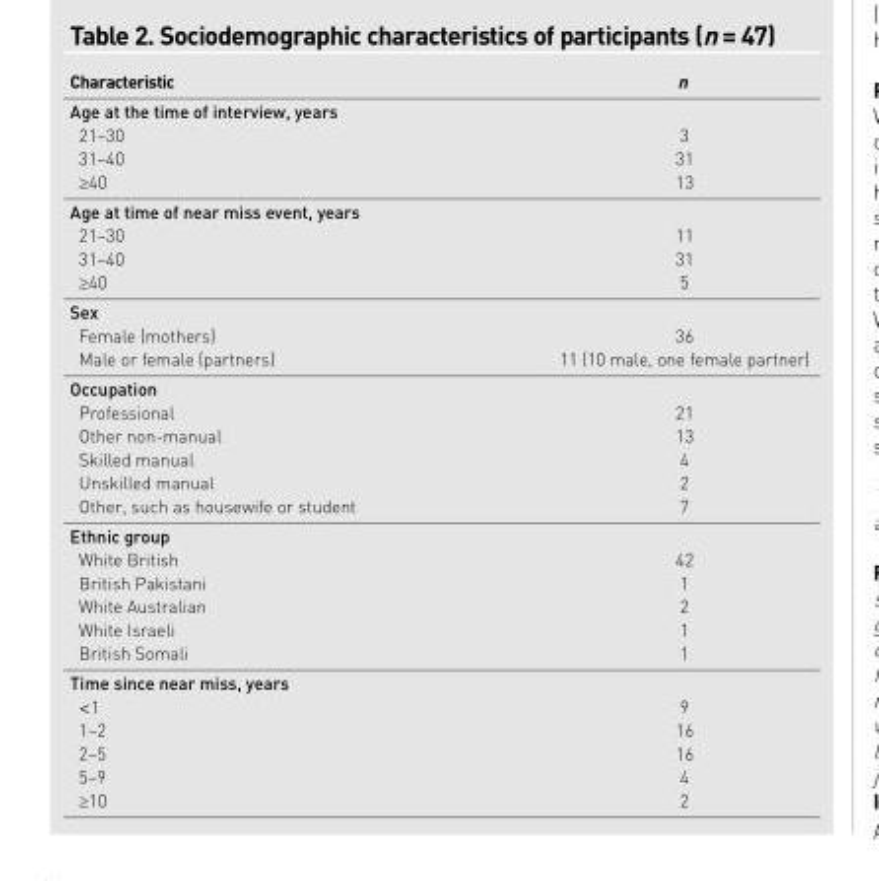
<table><thead><tr><td>Characteristic</td><td>n</td></tr></thead><tbody><tr><td colspan="2">Age at the time of interview, years</td></tr><tr><td>21–30</td><td>3</td></tr><tr><td>31–40</td><td>31</td></tr><tr><td>≥40</td><td>13</td></tr><tr><td colspan="2">Age at time of near miss event, years</td></tr><tr><td>21–30</td><td>11</td></tr><tr><td>31–40</td><td>31</td></tr><tr><td>≥40</td><td>5</td></tr><tr><td colspan="2">Sex</td></tr><tr><td>Female (mothers)</td><td>36</td></tr><tr><td>Male or female (partners)</td><td>11 (10 male, one female partner)</td></tr><tr><td colspan="2">Occupation</td></tr><tr><td>Professional</td><td>21</td></tr><tr><td>Other non-manual</td><td>13</td></tr><tr><td>Skilled manual</td><td>4</td></tr><tr><td>Unskilled manual</td><td>2</td></tr><tr><td>Other, such as housewife or student</td><td>7</td></tr><tr><td colspan="2">Ethnic group</td></tr><tr><td>White British</td><td>42</td></tr><tr><td>British Pakistani</td><td>1</td></tr><tr><td>White Australian</td><td>2</td></tr><tr><td>White Israeli</td><td>1</td></tr><tr><td>British Somali</td><td>1</td></tr><tr><td colspan="2">Time since near miss, years</td></tr><tr><td>&lt;1</td><td>9</td></tr><tr><td>1–2</td><td>16</td></tr><tr><td>2–5</td><td>16</td></tr><tr><td>5–9</td><td>4</td></tr><tr><td>≥10</td><td>2</td></tr></tbody></table>